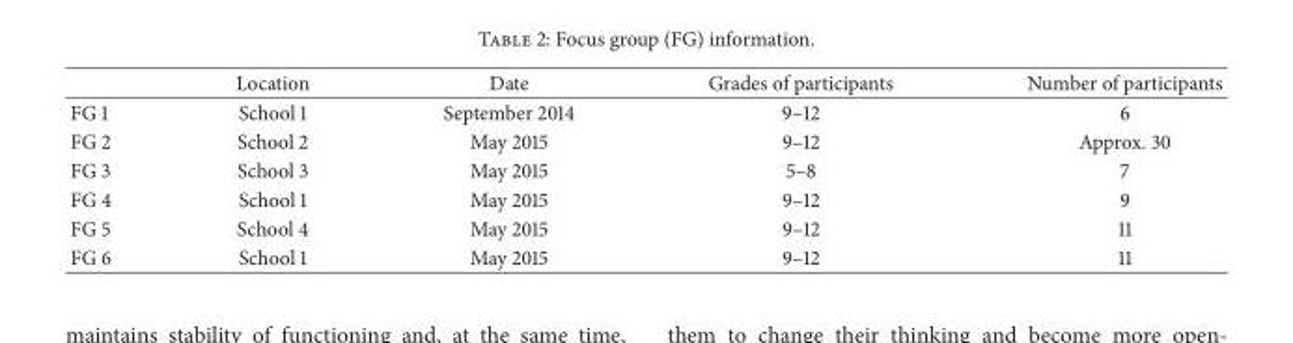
<table><thead><tr><td></td><td>Location</td><td>Date</td><td>Grades of participants</td><td>Number of participants</td></tr></thead><tbody><tr><td>FG 1</td><td>School 1</td><td>September 2014</td><td>9–12</td><td>6</td></tr><tr><td>FG 2</td><td>School 2</td><td>May 2015</td><td>9–12</td><td>Approx. 30</td></tr><tr><td>FG 3</td><td>School 3</td><td>May 2015</td><td>5–8</td><td>7</td></tr><tr><td>FG 4</td><td>School 1</td><td>May 2015</td><td>9–12</td><td>9</td></tr><tr><td>FG 5</td><td>School 4</td><td>May 2015</td><td>9–12</td><td>11</td></tr><tr><td>FG 6</td><td>School 1</td><td>May 2015</td><td>9–12</td><td>11</td></tr></tbody></table>